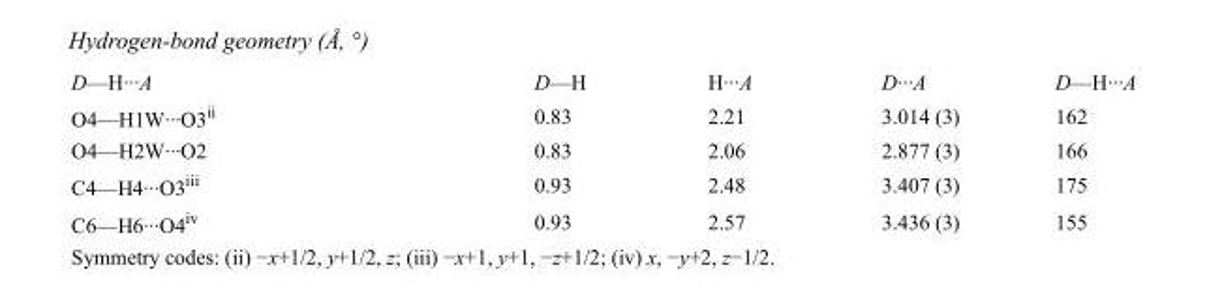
<table><tbody><tr><td>D—H···A</td><td>D—H</td><td>H···A</td><td>D···A</td><td>D—H···A</td></tr><tr><td>O4—H1W···O3<sup>ii</sup></td><td>0.83</td><td>2.21</td><td>3.014 (3)</td><td>162</td></tr><tr><td>O4—H2W···O2</td><td>0.83</td><td>2.06</td><td>2.877 (3)</td><td>166</td></tr><tr><td>C4—H4···O3<sup>iii</sup></td><td>0.93</td><td>2.48</td><td>3.407 (3)</td><td>175</td></tr><tr><td>C6—H6···O4<sup>iv</sup></td><td>0.93</td><td>2.57</td><td>3.436 (3)</td><td>155</td></tr></tbody></table>